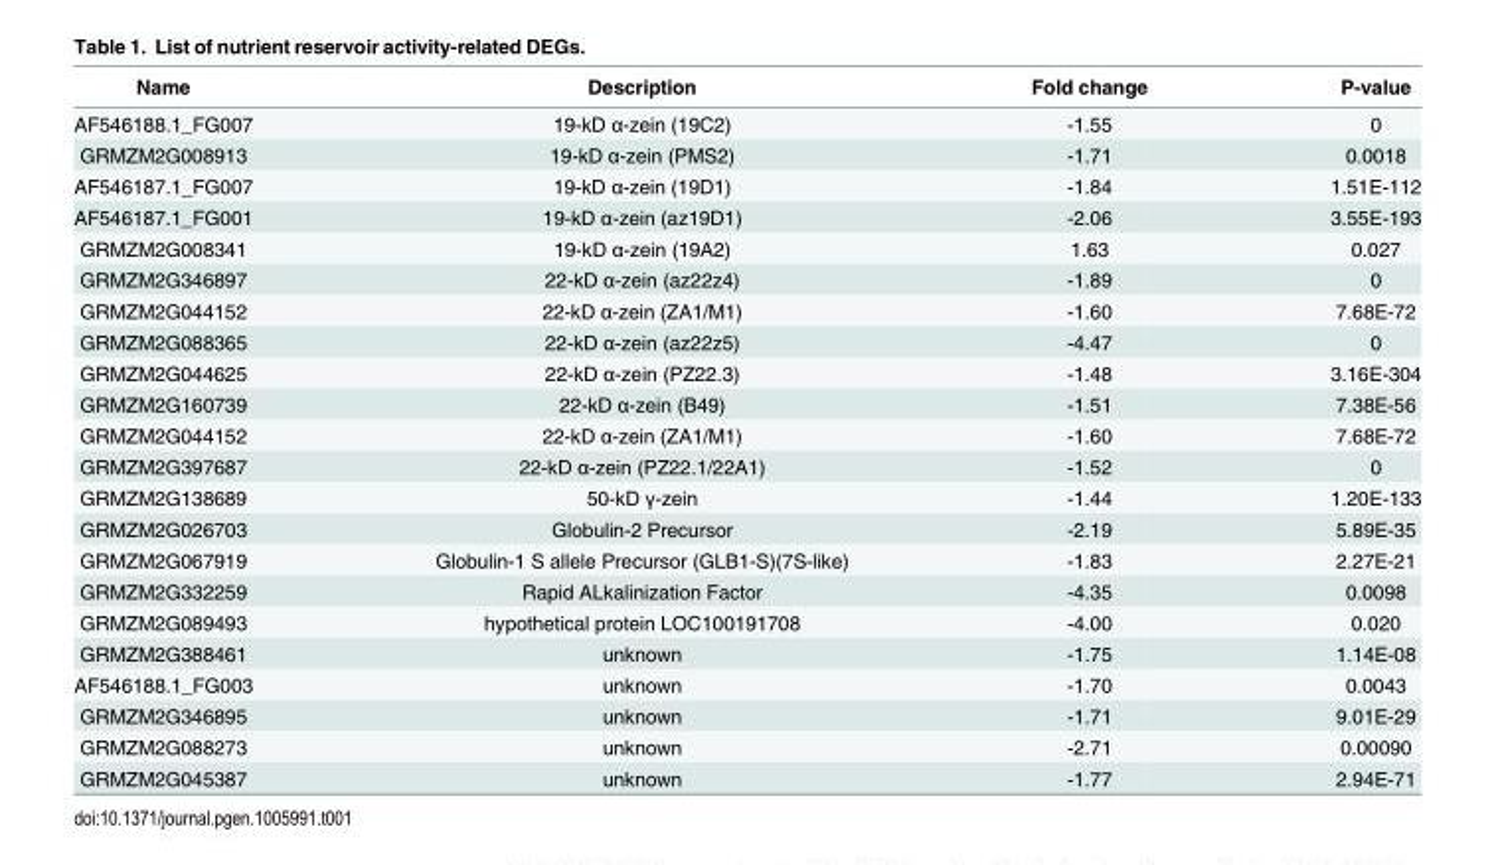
<table><thead><tr><td>Name</td><td>Description</td><td>Fold change</td><td>P-value</td></tr></thead><tbody><tr><td>AF546188.1_FG007</td><td>19-kD α-zein (19C2)</td><td>-1.55</td><td>0</td></tr><tr><td>GRMZM2G008913</td><td>19-kD α-zein (PMS2)</td><td>-1.71</td><td>0.0018</td></tr><tr><td>AF546187.1_FG007</td><td>19-kD α-zein (19D1)</td><td>-1.84</td><td>1.51E-112</td></tr><tr><td>AF546187.1_FG001</td><td>19-kD α-zein (az19D1)</td><td>-2.06</td><td>3.55E-193</td></tr><tr><td>GRMZM2G008341</td><td>19-kD α-zein (19A2)</td><td>1.63</td><td>0.027</td></tr><tr><td>GRMZM2G346897</td><td>22-kD α-zein (az22z4)</td><td>-1.89</td><td>0</td></tr><tr><td>GRMZM2G044152</td><td>22-kD α-zein (ZA1/M1)</td><td>-1.60</td><td>7.68E-72</td></tr><tr><td>GRMZM2G088365</td><td>22-kD α-zein (az22z5)</td><td>-4.47</td><td>0</td></tr><tr><td>GRMZM2G044625</td><td>22-kD α-zein (PZ22.3)</td><td>-1.48</td><td>3.16E-304</td></tr><tr><td>GRMZM2G160739</td><td>22-kD α-zein (B49)</td><td>-1.51</td><td>7.38E-56</td></tr><tr><td>GRMZM2G044152</td><td>22-kD α-zein (ZA1/M1)</td><td>-1.60</td><td>7.68E-72</td></tr><tr><td>GRMZM2G397687</td><td>22-kD α-zein (PZ22.1/22A1)</td><td>-1.52</td><td>0</td></tr><tr><td>GRMZM2G138689</td><td>50-kD γ-zein</td><td>-1.44</td><td>1.20E-133</td></tr><tr><td>GRMZM2G026703</td><td>Globulin-2 Precursor</td><td>-2.19</td><td>5.89E-35</td></tr><tr><td>GRMZM2G067919</td><td>Globulin-1 S allele Precursor (GLB1-S)(7S-like)</td><td>-1.83</td><td>2.27E-21</td></tr><tr><td>GRMZM2G332259</td><td>Rapid ALkalinization Factor</td><td>-4.35</td><td>0.0098</td></tr><tr><td>GRMZM2G089493</td><td>hypothetical protein LOC100191708</td><td>-4.00</td><td>0.020</td></tr><tr><td>GRMZM2G388461</td><td>unknown</td><td>-1.75</td><td>1.14E-08</td></tr><tr><td>AF546188.1_FG003</td><td>unknown</td><td>-1.70</td><td>0.0043</td></tr><tr><td>GRMZM2G346895</td><td>unknown</td><td>-1.71</td><td>9.01E-29</td></tr><tr><td>GRMZM2G088273</td><td>unknown</td><td>-2.71</td><td>0.00090</td></tr><tr><td>GRMZM2G045387</td><td>unknown</td><td>-1.77</td><td>2.94E-71</td></tr></tbody></table>